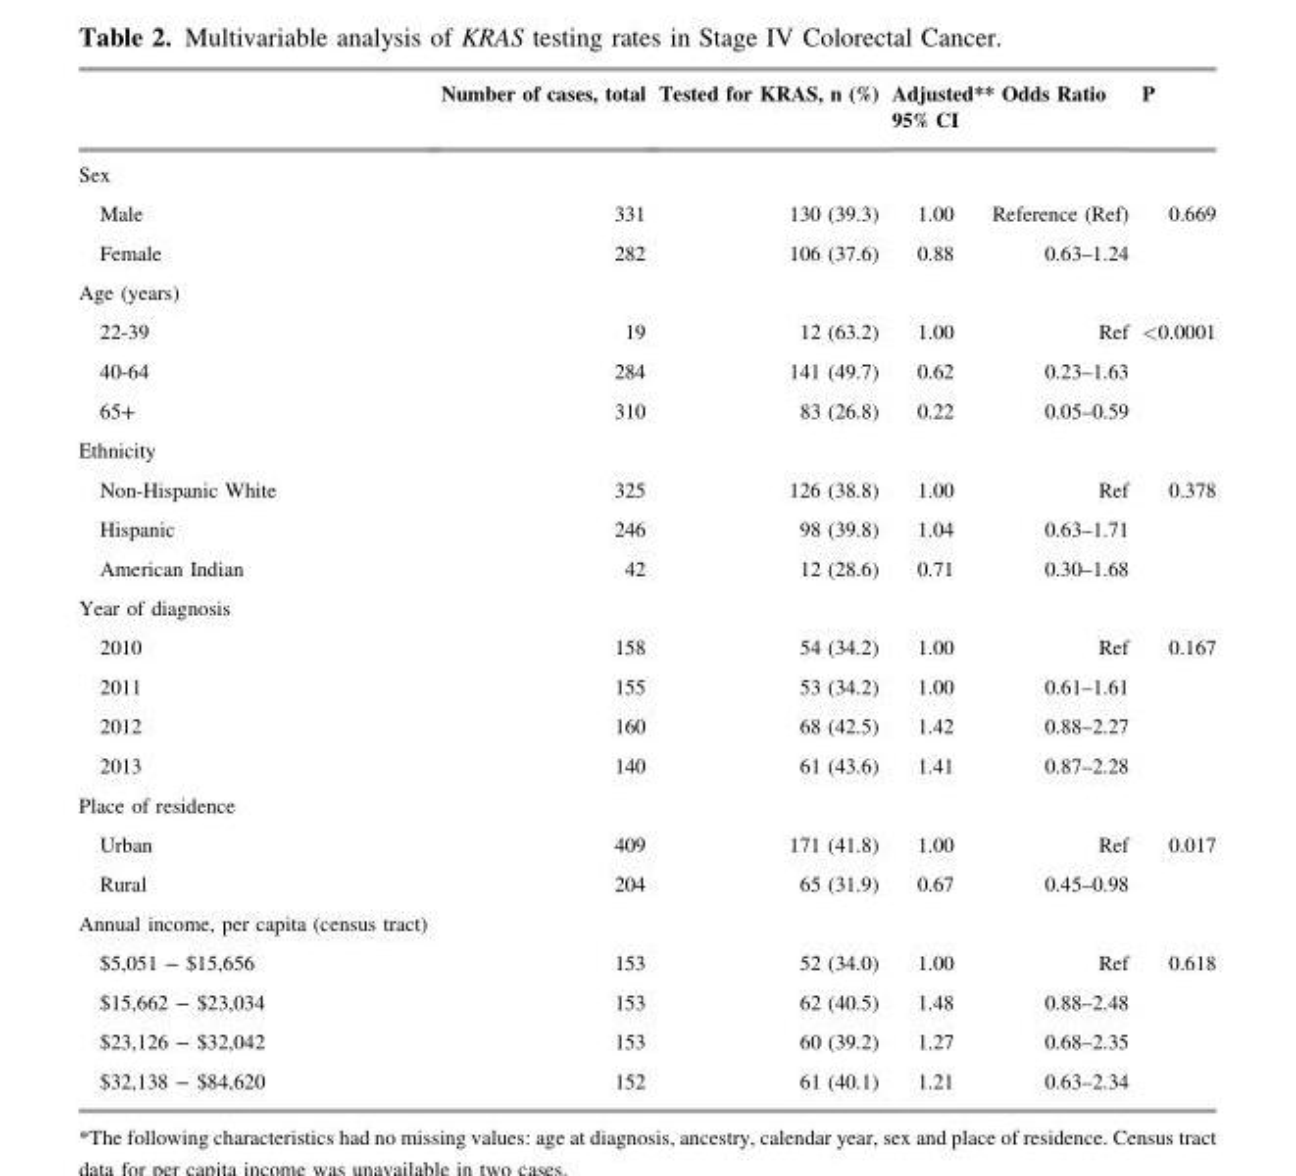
<table><thead><tr><td rowspan="2">Sex</td><td rowspan="2">Number of cases, total</td><td rowspan="2">Tested for KRAS, n (%)</td><td colspan="2">Adjusted** Odds Ratio 95% CI</td><td rowspan="2">P</td></tr><tr><td></td><td></td></tr></thead><tbody><tr><td>Male</td><td>331</td><td>130 (39.3)</td><td>1.00</td><td>Reference (Ref)</td><td>0.669</td></tr><tr><td>Female</td><td>282</td><td>106 (37.6)</td><td>0.88</td><td>0.63–1.24</td><td></td></tr><tr><td colspan="6">Age (years)</td></tr><tr><td>22-39</td><td>19</td><td>12 (63.2)</td><td>1.00</td><td>Ref</td><td>&lt;0.0001</td></tr><tr><td>40-64</td><td>284</td><td>141 (49.7)</td><td>0.62</td><td>0.23–1.63</td><td></td></tr><tr><td>65+</td><td>310</td><td>83 (26.8)</td><td>0.22</td><td>0.05–0.59</td><td></td></tr><tr><td colspan="6">Ethnicity</td></tr><tr><td>Non-Hispanic White</td><td>325</td><td>126 (38.8)</td><td>1.00</td><td>Ref</td><td>0.378</td></tr><tr><td>Hispanic</td><td>246</td><td>98 (39.8)</td><td>1.04</td><td>0.63–1.71</td><td></td></tr><tr><td>American Indian</td><td>42</td><td>12 (28.6)</td><td>0.71</td><td>0.30–1.68</td><td></td></tr><tr><td colspan="6">Year of diagnosis</td></tr><tr><td>2010</td><td>158</td><td>54 (34.2)</td><td>1.00</td><td>Ref</td><td>0.167</td></tr><tr><td>2011</td><td>155</td><td>53 (34.2)</td><td>1.00</td><td>0.61–1.61</td><td></td></tr><tr><td>2012</td><td>160</td><td>68 (42.5)</td><td>1.42</td><td>0.88–2.27</td><td></td></tr><tr><td>2013</td><td>140</td><td>61 (43.6)</td><td>1.41</td><td>0.87–2.28</td><td></td></tr><tr><td colspan="6">Place of residence</td></tr><tr><td>Urban</td><td>409</td><td>171 (41.8)</td><td>1.00</td><td>Ref</td><td>0.017</td></tr><tr><td>Rural</td><td>204</td><td>65 (31.9)</td><td>0.67</td><td>0.45–0.98</td><td></td></tr><tr><td colspan="6">Annual income, per capita (census tract)</td></tr><tr><td>$5,051 − $15,656</td><td>153</td><td>52 (34.0)</td><td>1.00</td><td>Ref</td><td>0.618</td></tr><tr><td>$15,662 − $23,034</td><td>153</td><td>62 (40.5)</td><td>1.48</td><td>0.88–2.48</td><td></td></tr><tr><td>$23,126 − $32,042</td><td>153</td><td>60 (39.2)</td><td>1.27</td><td>0.68–2.35</td><td></td></tr><tr><td>$32,138 − $84,620</td><td>152</td><td>61 (40.1)</td><td>1.21</td><td>0.63–2.34</td><td></td></tr></tbody></table>